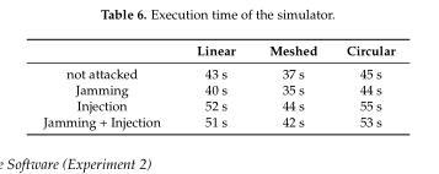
<table><thead><tr><td></td><td>Linear</td><td>Meshed</td><td>Circular</td></tr></thead><tbody><tr><td>not attacked</td><td>43 s</td><td>37 s</td><td>45 s</td></tr><tr><td>Jamming</td><td>40 s</td><td>35 s</td><td>44 s</td></tr><tr><td>Injection</td><td>52 s</td><td>44 s</td><td>55 s</td></tr><tr><td>Jamming + Injection</td><td>51 s</td><td>42 s</td><td>53 s</td></tr></tbody></table>